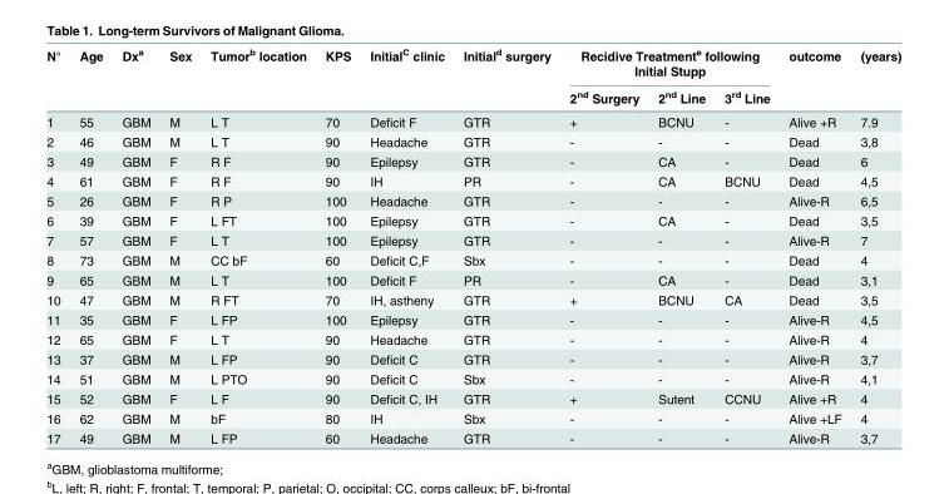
<table><thead><tr><td rowspan="2">N°</td><td rowspan="2">Age</td><td rowspan="2">Dx<sup>a</sup></td><td rowspan="2">Sex</td><td rowspan="2">Tumor<sup>b</sup> location</td><td rowspan="2">KPS</td><td rowspan="2">Initial<sup>C</sup> clinic</td><td rowspan="2">Initial<sup>d</sup> surgery</td><td colspan="3">Recidive Treatment<sup>e</sup> following Initial Stupp</td><td rowspan="2">outcome</td><td rowspan="2">(years)</td></tr><tr><td>2<sup>nd</sup> Surgery</td><td>2<sup>nd</sup> Line</td><td>3<sup>rd</sup> Line</td></tr></thead><tbody><tr><td>1</td><td>55</td><td>GBM</td><td>M</td><td>L T</td><td>70</td><td>Deficit F</td><td>GTR</td><td>+</td><td>BCNU</td><td>-</td><td>Alive +R</td><td>7.9</td></tr><tr><td>2</td><td>46</td><td>GBM</td><td>M</td><td>L T</td><td>90</td><td>Headache</td><td>GTR</td><td>-</td><td>-</td><td>-</td><td>Dead</td><td>3,8</td></tr><tr><td>3</td><td>49</td><td>GBM</td><td>F</td><td>R F</td><td>90</td><td>Epilepsy</td><td>GTR</td><td>-</td><td>CA</td><td>-</td><td>Dead</td><td>6</td></tr><tr><td>4</td><td>61</td><td>GBM</td><td>F</td><td>R F</td><td>90</td><td>IH</td><td>PR</td><td>-</td><td>CA</td><td>BCNU</td><td>Dead</td><td>4,5</td></tr><tr><td>5</td><td>26</td><td>GBM</td><td>F</td><td>R P</td><td>100</td><td>Headache</td><td>GTR</td><td>-</td><td>-</td><td>-</td><td>Alive-R</td><td>6,5</td></tr><tr><td>6</td><td>39</td><td>GBM</td><td>F</td><td>L FT</td><td>100</td><td>Epilepsy</td><td>GTR</td><td>-</td><td>CA</td><td>-</td><td>Dead</td><td>3,5</td></tr><tr><td>7</td><td>57</td><td>GBM</td><td>F</td><td>L T</td><td>100</td><td>Epilepsy</td><td>GTR</td><td>-</td><td>-</td><td>-</td><td>Alive-R</td><td>7</td></tr><tr><td>8</td><td>73</td><td>GBM</td><td>M</td><td>CC bF</td><td>60</td><td>Deficit C,F</td><td>Sbx</td><td>-</td><td>-</td><td>-</td><td>Dead</td><td>4</td></tr><tr><td>9</td><td>65</td><td>GBM</td><td>M</td><td>L T</td><td>100</td><td>Deficit F</td><td>PR</td><td>-</td><td>CA</td><td>-</td><td>Dead</td><td>3,1</td></tr><tr><td>10</td><td>47</td><td>GBM</td><td>M</td><td>R FT</td><td>70</td><td>IH, astheny</td><td>GTR</td><td>+</td><td>BCNU</td><td>CA</td><td>Dead</td><td>3,5</td></tr><tr><td>11</td><td>35</td><td>GBM</td><td>F</td><td>L FP</td><td>100</td><td>Epilepsy</td><td>GTR</td><td>-</td><td>-</td><td>-</td><td>Alive-R</td><td>4,5</td></tr><tr><td>12</td><td>65</td><td>GBM</td><td>F</td><td>L T</td><td>90</td><td>Headache</td><td>GTR</td><td>-</td><td>-</td><td>-</td><td>Alive-R</td><td>4</td></tr><tr><td>13</td><td>37</td><td>GBM</td><td>M</td><td>L FP</td><td>90</td><td>Deficit C</td><td>GTR</td><td>-</td><td>-</td><td>-</td><td>Alive-R</td><td>3,7</td></tr><tr><td>14</td><td>51</td><td>GBM</td><td>M</td><td>L PTO</td><td>90</td><td>Deficit C</td><td>Sbx</td><td>-</td><td>-</td><td>-</td><td>Alive-R</td><td>4,1</td></tr><tr><td>15</td><td>52</td><td>GBM</td><td>F</td><td>L F</td><td>90</td><td>Deficit C, IH</td><td>GTR</td><td>+</td><td>Sutent</td><td>CCNU</td><td>Alive +R</td><td>4</td></tr><tr><td>16</td><td>62</td><td>GBM</td><td>M</td><td>bF</td><td>80</td><td>IH</td><td>Sbx</td><td>-</td><td>-</td><td>-</td><td>Alive +LF</td><td>4</td></tr><tr><td>17</td><td>49</td><td>GBM</td><td>M</td><td>L FP</td><td>60</td><td>Headache</td><td>GTR</td><td>-</td><td>-</td><td>-</td><td>Alive-R</td><td>3,7</td></tr></tbody></table>